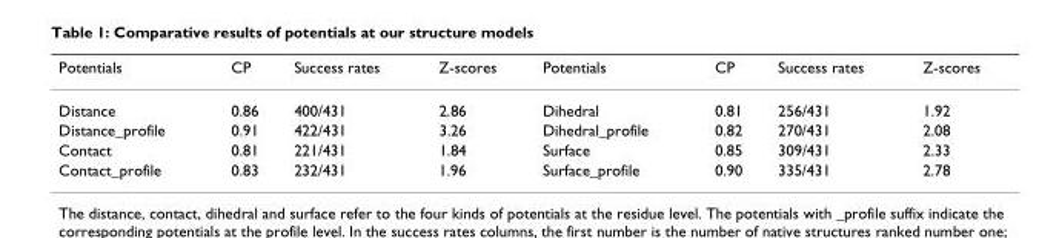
<table><thead><tr><td>Potentials</td><td>CP</td><td>Success rates</td><td>Z-scores</td><td>Potentials</td><td>CP</td><td>Success rates</td><td>Z-scores</td></tr></thead><tbody><tr><td>Distance</td><td>0.86</td><td>400/431</td><td>2.86</td><td>Dihedral</td><td>0.81</td><td>256/431</td><td>1.92</td></tr><tr><td>Distance_profile</td><td>0.91</td><td>422/431</td><td>3.26</td><td>Dihedral_profile</td><td>0.82</td><td>270/431</td><td>2.08</td></tr><tr><td>Contact</td><td>0.81</td><td>221/431</td><td>1.84</td><td>Surface</td><td>0.85</td><td>309/431</td><td>2.33</td></tr><tr><td>Contact_profile</td><td>0.83</td><td>232/431</td><td>1.96</td><td>Surface_profile</td><td>0.90</td><td>335/431</td><td>2.78</td></tr></tbody></table>